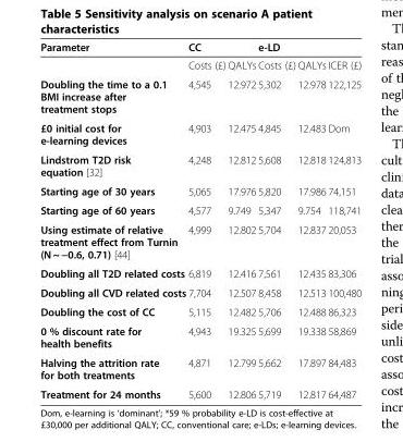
<table><thead><tr><td rowspan="2">Parameter</td><td colspan="2">CC</td><td colspan="2">e-LD</td><td rowspan="2">ICER (£)</td></tr><tr><td>Costs (£)</td><td>QALYs</td><td>Costs (£)</td><td>QALYs</td></tr></thead><tbody><tr><td>Doubling the time to a 0.1 BMI increase after treatment stops</td><td>4,545</td><td>12.972</td><td>5,302</td><td>12.978</td><td>122,125</td></tr><tr><td>£0 initial cost for e-learning devices</td><td>4,903</td><td>12.475</td><td>4,845</td><td>12.483</td><td>Dom</td></tr><tr><td>Lindstrom T2D risk equation [32]</td><td>4,248</td><td>12.812</td><td>5,608</td><td>12.818</td><td>124,813</td></tr><tr><td>Starting age of 30 years</td><td>5,065</td><td>17.976</td><td>5,820</td><td>17.986</td><td>74,151</td></tr><tr><td>Starting age of 60 years</td><td>4,577</td><td>9.749</td><td>5,347</td><td>9.754</td><td>118,741</td></tr><tr><td>Using estimate of relative treatment effect from Turnin (N ~ −0.6, 0.71) [44]</td><td>4,999</td><td>12.802</td><td>5,704</td><td>12.837</td><td>20,053</td></tr><tr><td>Doubling all T2D related costs</td><td>6,819</td><td>12.416</td><td>7,561</td><td>12.435</td><td>83,306</td></tr><tr><td>Doubling all CVD related costs</td><td>7,704</td><td>12.507</td><td>8,458</td><td>12.513</td><td>100,480</td></tr><tr><td>Doubling the cost of CC</td><td>5,115</td><td>12.482</td><td>5,706</td><td>12.488</td><td>86,323</td></tr><tr><td>0 % discount rate for health benefits</td><td>4,943</td><td>19.325</td><td>5,699</td><td>19.338</td><td>58,869</td></tr><tr><td>Halving the attrition rate for both treatments</td><td>4,871</td><td>12.799</td><td>5,662</td><td>17.897</td><td>84,483</td></tr><tr><td>Treatment for 24 months</td><td>5,600</td><td>12.806</td><td>5,719</td><td>12.817</td><td>64,487</td></tr></tbody></table>